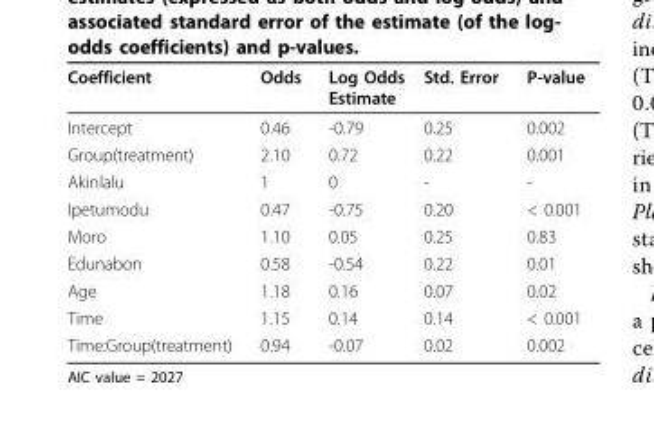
<table><thead><tr><td>Coefficient</td><td>Odds</td><td>Log Odds Estimate</td><td>Std. Error</td><td>P-value</td></tr></thead><tbody><tr><td>Intercept</td><td>0.46</td><td>-0.79</td><td>0.25</td><td>0.002</td></tr><tr><td>Group(treatment)</td><td>2.10</td><td>0.72</td><td>0.22</td><td>0.001</td></tr><tr><td>Akinlalu</td><td>1</td><td>0</td><td>-</td><td>-</td></tr><tr><td>Ipetumodu</td><td>0.47</td><td>-0.75</td><td>0.20</td><td>&lt; 0.001</td></tr><tr><td>Moro</td><td>1.10</td><td>0.05</td><td>0.25</td><td>0.83</td></tr><tr><td>Edunabon</td><td>0.58</td><td>-0.54</td><td>0.22</td><td>0.01</td></tr><tr><td>Age</td><td>1.18</td><td>0.16</td><td>0.07</td><td>0.02</td></tr><tr><td>Time</td><td>1.15</td><td>0.14</td><td>0.14</td><td>&lt; 0.001</td></tr><tr><td>Time:Group(treatment)</td><td>0.94</td><td>-0.07</td><td>0.02</td><td>0.002</td></tr></tbody></table>